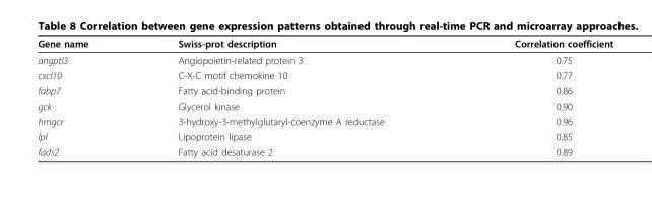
<table><thead><tr><td>Gene name</td><td>Swiss-prot description</td><td>Correlation coefficient</td></tr></thead><tbody><tr><td>angptl3</td><td>Angiopoietin-related protein 3</td><td>0.75</td></tr><tr><td>cxcl10</td><td>C-X-C motif chemokine 10</td><td>0.77</td></tr><tr><td>fabp7</td><td>Fatty acid-binding protein</td><td>0.86</td></tr><tr><td>gck</td><td>Glycerol kinase</td><td>0.90</td></tr><tr><td>hmgcr</td><td>3-hydroxy-3-methylglutaryl-coenzyme A reductase</td><td>0.96</td></tr><tr><td>lpl</td><td>Lipoprotein lipase</td><td>0.85</td></tr><tr><td>fads2</td><td>Fatty acid desaturase 2</td><td>0.89</td></tr></tbody></table>